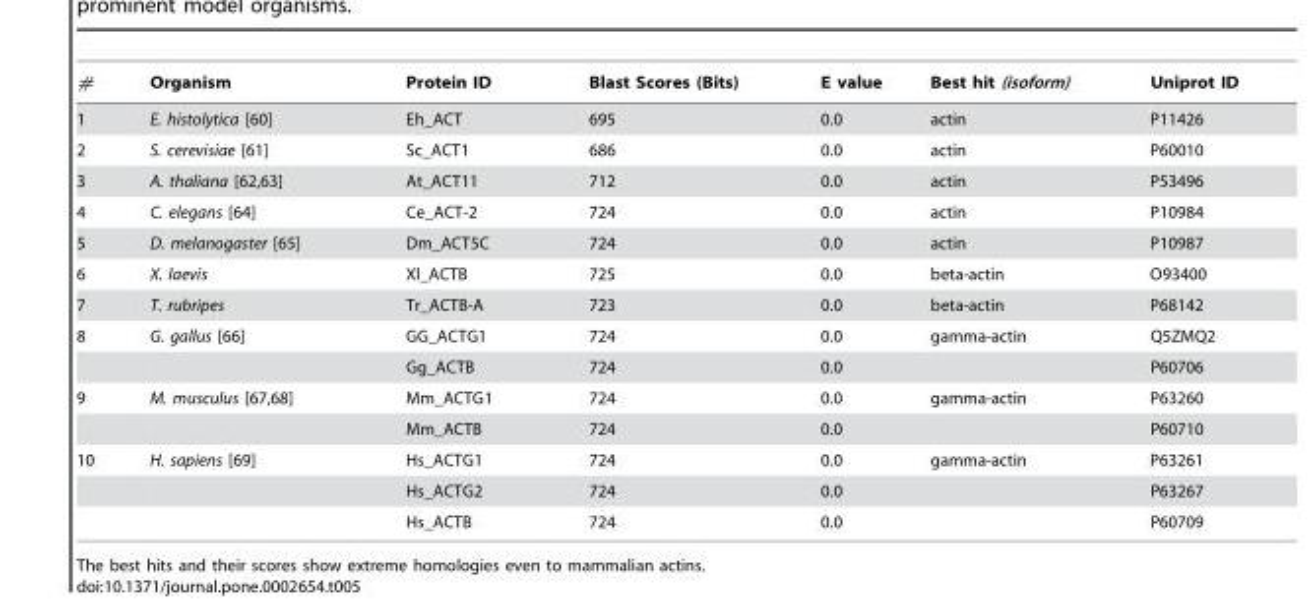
<table><thead><tr><td>#</td><td>Organism</td><td>Protein ID</td><td>Blast Scores (Bits)</td><td>E value</td><td>Best hit (isoform)</td><td>Uniprot ID</td></tr></thead><tbody><tr><td>1</td><td>E. histolytica [60]</td><td>Eh_ACT</td><td>695</td><td>0.0</td><td>actin</td><td>P11426</td></tr><tr><td>2</td><td>S. cerevisiae [61]</td><td>Sc_ACT1</td><td>686</td><td>0.0</td><td>actin</td><td>P60010</td></tr><tr><td>3</td><td>A. thaliana [62,63]</td><td>At_ACT11</td><td>712</td><td>0.0</td><td>actin</td><td>P53496</td></tr><tr><td>4</td><td>C. elegans [64]</td><td>Ce_ACT-2</td><td>724</td><td>0.0</td><td>actin</td><td>P10984</td></tr><tr><td>5</td><td>D. melanogaster [65]</td><td>Dm_ACT5C</td><td>724</td><td>0.0</td><td>actin</td><td>P10987</td></tr><tr><td>6</td><td>X. laevis</td><td>Xl_ACTB</td><td>725</td><td>0.0</td><td>beta-actin</td><td>O93400</td></tr><tr><td>7</td><td>T. rubripes</td><td>Tr_ACTB-A</td><td>723</td><td>0.0</td><td>beta-actin</td><td>P68142</td></tr><tr><td rowspan="2">8</td><td>G. gallus [66]</td><td>GG_ACTG1</td><td>724</td><td>0.0</td><td>gamma-actin</td><td>Q5ZMQ2</td></tr><tr><td></td><td>Gg_ACTB</td><td>724</td><td>0.0</td><td></td><td>P60706</td></tr><tr><td rowspan="2">9</td><td>M. musculus [67,68]</td><td>Mm_ACTG1</td><td>724</td><td>0.0</td><td>gamma-actin</td><td>P63260</td></tr><tr><td></td><td>Mm_ACTB</td><td>724</td><td>0.0</td><td></td><td>P60710</td></tr><tr><td rowspan="3">10</td><td>H. sapiens [69]</td><td>Hs_ACTG1</td><td>724</td><td>0.0</td><td>gamma-actin</td><td>P63261</td></tr><tr><td></td><td>Hs_ACTG2</td><td>724</td><td>0.0</td><td></td><td>P63267</td></tr><tr><td></td><td>Hs_ACTB</td><td>724</td><td>0.0</td><td></td><td>P60709</td></tr></tbody></table>